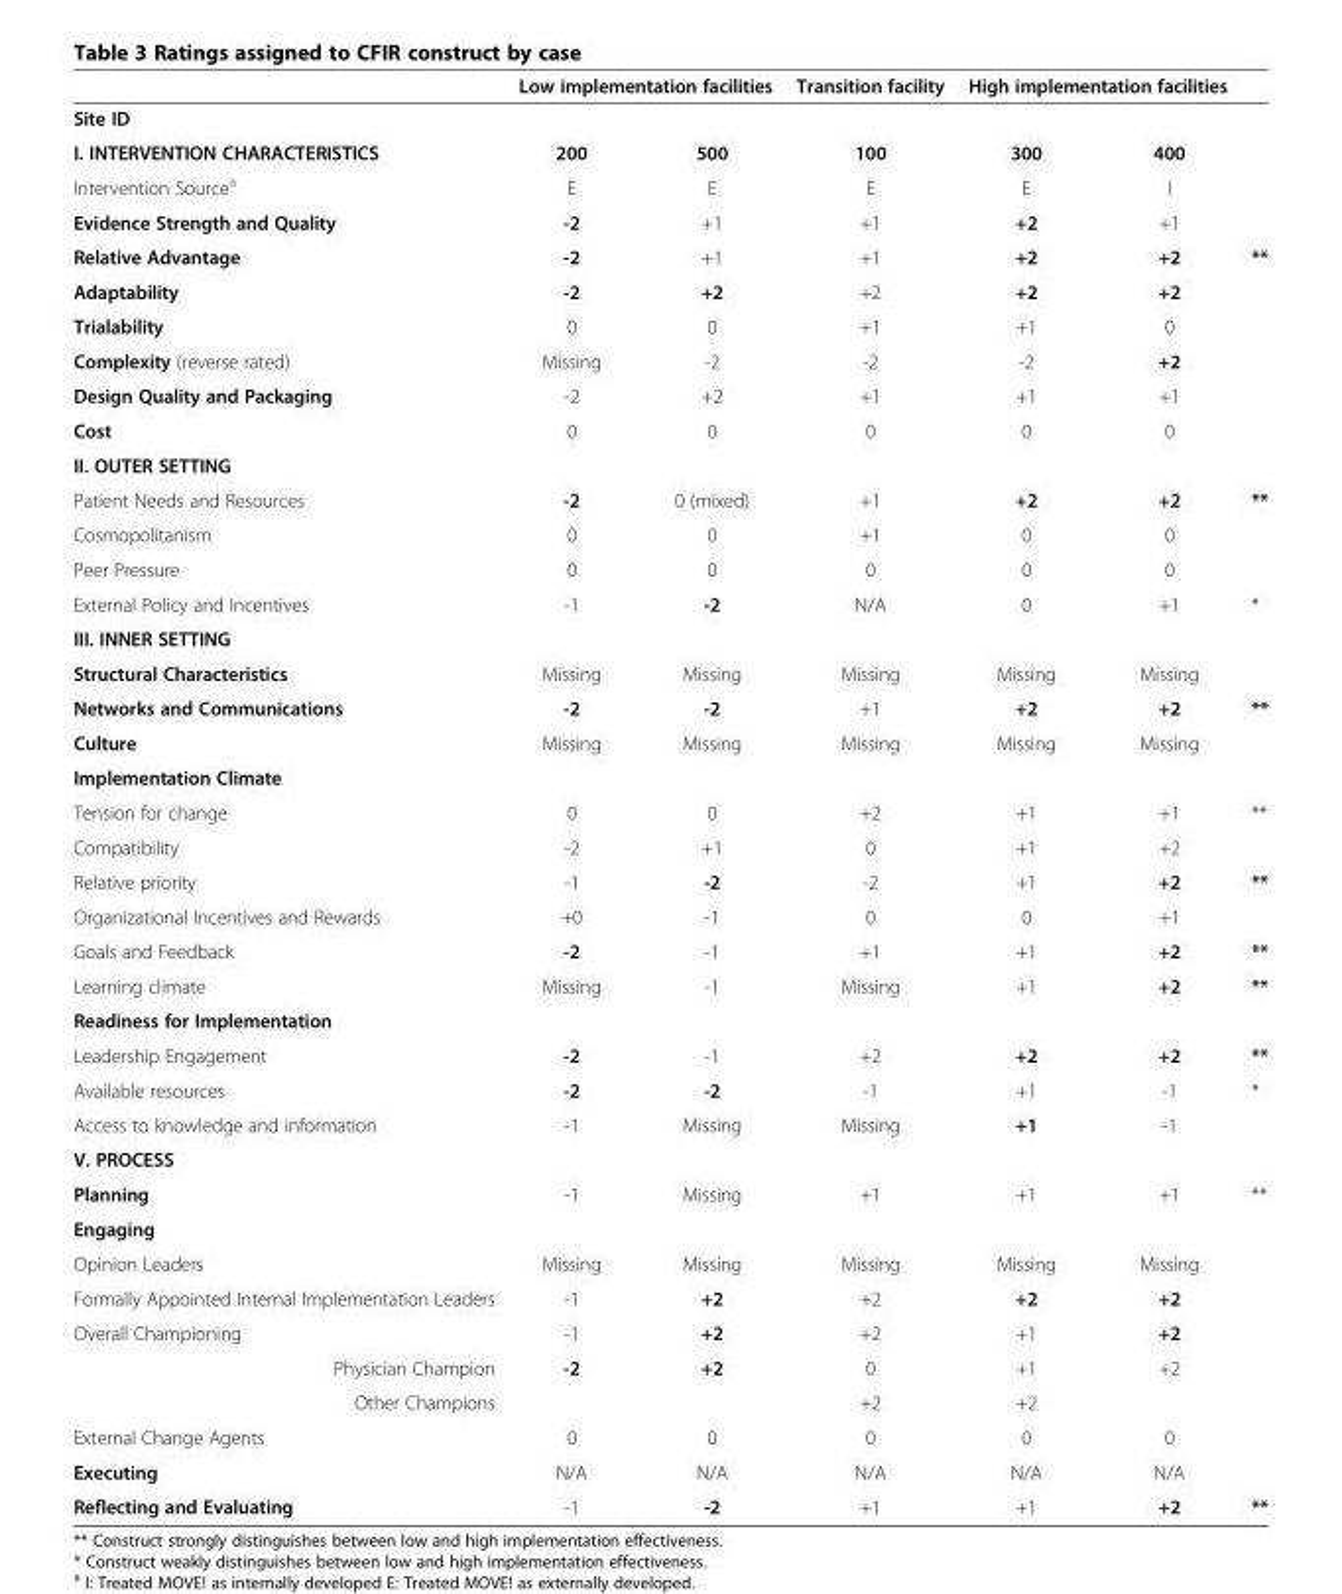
<table><thead><tr><td></td><td colspan="2">Low implementation facilities</td><td rowspan="3">Transition facility 100</td><td colspan="2">High implementation facilities</td><td rowspan="3"></td></tr><tr><td colspan="3">Site ID</td><td rowspan="2">300</td><td rowspan="2">400</td></tr><tr><td>I. INTERVENTION CHARACTERISTICS</td><td>200</td><td>500</td></tr></thead><tbody><tr><td>Intervention Source<sup>a</sup></td><td>E</td><td>E</td><td>E</td><td>E</td><td>I</td><td></td></tr><tr><td>Evidence Strength and Quality</td><td>-2</td><td>+1</td><td>+1</td><td>+2</td><td>+1</td><td></td></tr><tr><td>Relative Advantage</td><td>-2</td><td>+1</td><td>+1</td><td>+2</td><td>+2</td><td>**</td></tr><tr><td>Adaptability</td><td>-2</td><td>+2</td><td>+2</td><td>+2</td><td>+2</td><td></td></tr><tr><td>Trialability</td><td>0</td><td>0</td><td>+1</td><td>+1</td><td>0</td><td></td></tr><tr><td>Complexity (reverse rated)</td><td>Missing</td><td>-2</td><td>-2</td><td>-2</td><td>+2</td><td></td></tr><tr><td>Design Quality and Packaging</td><td>-2</td><td>+2</td><td>+1</td><td>+1</td><td>+1</td><td></td></tr><tr><td>Cost</td><td>0</td><td>0</td><td>0</td><td>0</td><td>0</td><td></td></tr><tr><td colspan="7">II. OUTER SETTING</td></tr><tr><td>Patient Needs and Resources</td><td>-2</td><td>0 (mixed)</td><td>+1</td><td>+2</td><td>+2</td><td>**</td></tr><tr><td>Cosmopolitanism</td><td>0</td><td>0</td><td>+1</td><td>0</td><td>0</td><td></td></tr><tr><td>Peer Pressure</td><td>0</td><td>0</td><td>0</td><td>0</td><td>0</td><td></td></tr><tr><td>External Policy and Incentives</td><td>-1</td><td>-2</td><td>N/A</td><td>0</td><td>+1</td><td>*</td></tr><tr><td colspan="7">III. INNER SETTING</td></tr><tr><td>Structural Characteristics</td><td>Missing</td><td>Missing</td><td>Missing</td><td>Missing</td><td>Missing</td><td></td></tr><tr><td>Networks and Communications</td><td>-2</td><td>-2</td><td>+1</td><td>+2</td><td>+2</td><td>**</td></tr><tr><td>Culture</td><td>Missing</td><td>Missing</td><td>Missing</td><td>Missing</td><td>Missing</td><td></td></tr><tr><td colspan="7">Implementation Climate</td></tr><tr><td>Tension for change</td><td>0</td><td>0</td><td>+2</td><td>+1</td><td>+1</td><td>**</td></tr><tr><td>Compatibility</td><td>-2</td><td>+1</td><td>0</td><td>+1</td><td>+2</td><td></td></tr><tr><td>Relative priority</td><td>-1</td><td>-2</td><td>-2</td><td>+1</td><td>+2</td><td>**</td></tr><tr><td>Organizational Incentives and Rewards</td><td>+0</td><td>-1</td><td>0</td><td>0</td><td>+1</td><td></td></tr><tr><td>Goals and Feedback</td><td>-2</td><td>-1</td><td>+1</td><td>+1</td><td>+2</td><td>**</td></tr><tr><td>Learning climate</td><td>Missing</td><td>-1</td><td>Missing</td><td>+1</td><td>+2</td><td>**</td></tr><tr><td colspan="7">Readiness for Implementation</td></tr><tr><td>Leadership Engagement</td><td>-2</td><td>-1</td><td>+2</td><td>+2</td><td>+2</td><td>**</td></tr><tr><td>Available resources</td><td>-2</td><td>-2</td><td>-1</td><td>+1</td><td>-1</td><td>*</td></tr><tr><td>Access to knowledge and information</td><td>-1</td><td>Missing</td><td>Missing</td><td>+1</td><td>-1</td><td></td></tr><tr><td colspan="7">V. PROCESS</td></tr><tr><td>Planning</td><td>-1</td><td>Missing</td><td>+1</td><td>+1</td><td>+1</td><td>**</td></tr><tr><td colspan="7">Engaging</td></tr><tr><td>Opinion Leaders</td><td>Missing</td><td>Missing</td><td>Missing</td><td>Missing</td><td>Missing</td><td></td></tr><tr><td>Formally Appointed Internal Implementation Leaders</td><td>-1</td><td>+2</td><td>+2</td><td>+2</td><td>+2</td><td></td></tr><tr><td>Overall Championing</td><td>-1</td><td>+2</td><td>+2</td><td>+1</td><td>+2</td><td></td></tr><tr><td>Physician Champion</td><td>-2</td><td>+2</td><td>0</td><td>+1</td><td>+2</td><td></td></tr><tr><td>Other Champions</td><td></td><td></td><td>+2</td><td>+2</td><td></td><td></td></tr><tr><td>External Change Agents</td><td>0</td><td>0</td><td>0</td><td>0</td><td>0</td><td></td></tr><tr><td>Executing</td><td>N/A</td><td>N/A</td><td>N/A</td><td>N/A</td><td>N/A</td><td></td></tr><tr><td>Reflecting and Evaluating</td><td>-1</td><td>-2</td><td>+1</td><td>+1</td><td>+2</td><td>**</td></tr></tbody></table>